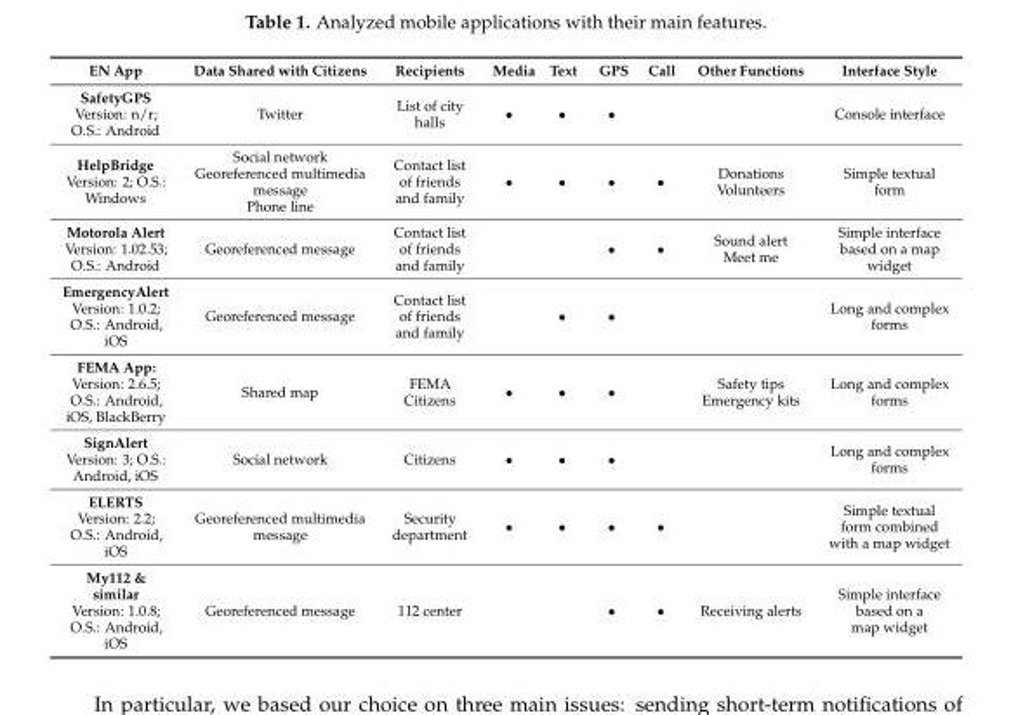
<table><thead><tr><td>EN App</td><td>Data Shared with Citizens</td><td>Recipients</td><td>Media</td><td>Text</td><td>GPS</td><td>Call</td><td>Other Functions</td><td>Interface Style</td></tr></thead><tbody><tr><td>SafetyGPS Version: n/r; O.S.: Android</td><td>Twitter</td><td>List of city halls</td><td>‚</td><td>‚</td><td>‚</td><td></td><td></td><td>Console interface</td></tr><tr><td>HelpBridge Version: 2; O.S.: Windows</td><td>Social network Georeferenced multimedia message Phone line</td><td>Contact list of friends and family</td><td>‚</td><td>‚</td><td>‚</td><td>‚</td><td>Donations Volunteers</td><td>Simple textual form</td></tr><tr><td>Motorola Alert Version: 1.02.53; O.S.: Android</td><td>Georeferenced message</td><td>Contact list of friends and family</td><td></td><td></td><td>‚</td><td>‚</td><td>Sound alert Meet me</td><td>Simple interface based on a map widget</td></tr><tr><td>EmergencyAlert Version: 1.0.2; O.S.: Android, iOS</td><td>Georeferenced message</td><td>Contact list of friends and family</td><td></td><td>‚</td><td>‚</td><td></td><td></td><td>Long and complex forms</td></tr><tr><td>FEMA App: Version: 2.6.5; O.S.: Android, iOS, BlackBerry</td><td>Shared map</td><td>FEMA Citizens</td><td>‚</td><td>‚</td><td>‚</td><td></td><td>Safety tips Emergency kits</td><td>Long and complex forms</td></tr><tr><td>SignAlert Version: 3; O.S.: Android, iOS</td><td>Social network</td><td>Citizens</td><td>‚</td><td>‚</td><td>‚</td><td></td><td></td><td>Long and complex forms</td></tr><tr><td>ELERTS Version: 2.2; O.S.: Android, iOS</td><td>Georeferenced multimedia message</td><td>Security department</td><td>‚</td><td>‚</td><td>‚</td><td>‚</td><td></td><td>Simple textual form combined with a map widget</td></tr><tr><td>My112 &amp; similar Version: 1.0.8; O.S.: Android, iOS</td><td>Georeferenced message</td><td>112 center</td><td></td><td></td><td>‚</td><td>‚</td><td>Receiving alerts</td><td>Simple interface based on a map widget</td></tr></tbody></table>